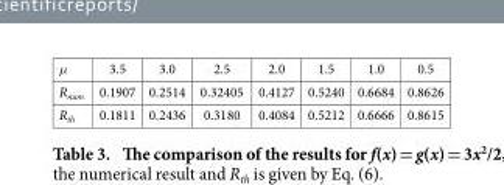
<table><tbody><tr><td>μ</td><td>3.5</td><td>3.0</td><td>2.5</td><td>2.0</td><td>1.5</td><td>1.0</td><td>0.5</td></tr><tr><td>R<sub>num</sub></td><td>0.1907</td><td>0.2514</td><td>0.32405</td><td>0.4127</td><td>0.5240</td><td>0.6684</td><td>0.8626</td></tr><tr><td>R<sub>th</sub></td><td>0.1811</td><td>0.2436</td><td>0.3180</td><td>0.4084</td><td>0.5212</td><td>0.6666</td><td>0.8615</td></tr></tbody></table>